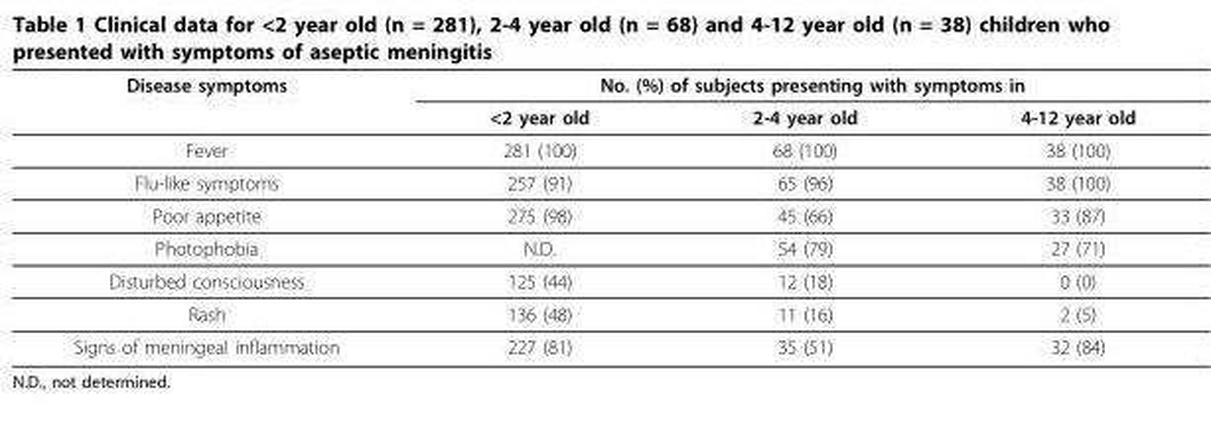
<table><thead><tr><td rowspan="2">Disease symptoms</td><td colspan="3">No. (%) of subjects presenting with symptoms in</td></tr><tr><td>&lt;2 year old</td><td>2-4 year old</td><td>4-12 year old</td></tr></thead><tbody><tr><td>Fever</td><td>281 (100)</td><td>68 (100)</td><td>38 (100)</td></tr><tr><td>Flu-like symptoms</td><td>257 (91)</td><td>65 (96)</td><td>38 (100)</td></tr><tr><td>Poor appetite</td><td>275 (98)</td><td>45 (66)</td><td>33 (87)</td></tr><tr><td>Photophobia</td><td>N.D.</td><td>54 (79)</td><td>27 (71)</td></tr><tr><td>Disturbed consciousness</td><td>125 (44)</td><td>12 (18)</td><td>0 (0)</td></tr><tr><td>Rash</td><td>136 (48)</td><td>11 (16)</td><td>2 (5)</td></tr><tr><td>Signs of meningeal inflammation</td><td>227 (81)</td><td>35 (51)</td><td>32 (84)</td></tr></tbody></table>